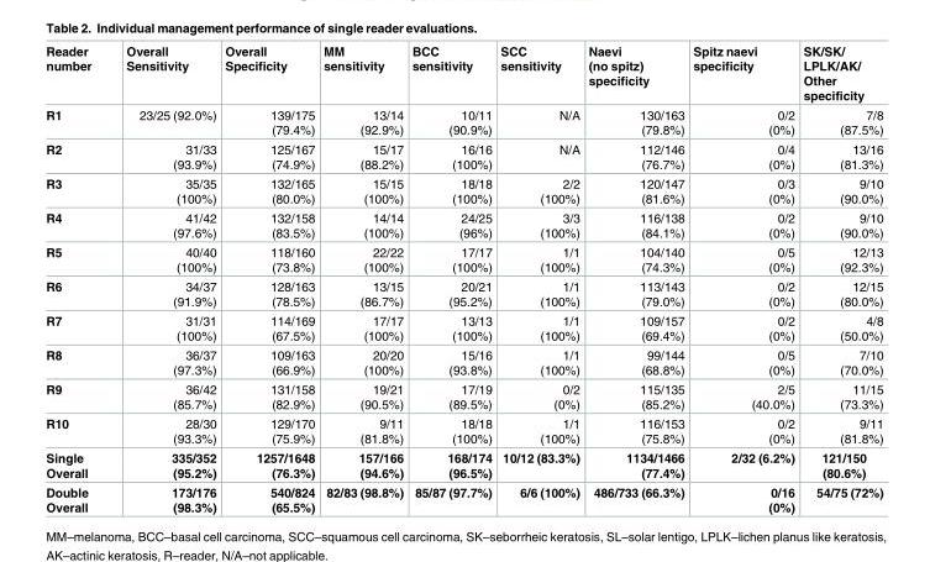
<table><thead><tr><td>Reader number</td><td>Overall Sensitivity</td><td>Overall Specificity</td><td>MM sensitivity</td><td>BCC sensitivity</td><td>SCC sensitivity</td><td>Naevi (no spitz) specificity</td><td>Spitz naevi specificity</td><td>SK/SK/ LPLK/AK/ Other specificity</td></tr></thead><tbody><tr><td>R1</td><td>23/25 (92.0%)</td><td>139/175 (79.4%)</td><td>13/14 (92.9%)</td><td>10/11 (90.9%)</td><td>N/A</td><td>130/163 (79.8%)</td><td>0/2 (0%)</td><td>7/8 (87.5%)</td></tr><tr><td>R2</td><td>31/33 (93.9%)</td><td>125/167 (74.9%)</td><td>15/17 (88.2%)</td><td>16/16 (100%)</td><td>N/A</td><td>112/146 (76.7%)</td><td>0/4 (0%)</td><td>13/16 (81.3%)</td></tr><tr><td>R3</td><td>35/35 (100%)</td><td>132/165 (80.0%)</td><td>15/15 (100%)</td><td>18/18 (100%)</td><td>2/2 (100%)</td><td>120/147 (81.6%)</td><td>0/3 (0%)</td><td>9/10 (90.0%)</td></tr><tr><td>R4</td><td>41/42 (97.6%)</td><td>132/158 (83.5%)</td><td>14/14 (100%)</td><td>24/25 (96%)</td><td>3/3 (100%)</td><td>116/138 (84.1%)</td><td>0/2 (0%)</td><td>9/10 (90.0%)</td></tr><tr><td>R5</td><td>40/40 (100%)</td><td>118/160 (73.8%)</td><td>22/22 (100%)</td><td>17/17 (100%)</td><td>1/1 (100%)</td><td>104/140 (74.3%)</td><td>0/5 (0%)</td><td>12/13 (92.3%)</td></tr><tr><td>R6</td><td>34/37 (91.9%)</td><td>128/163 (78.5%)</td><td>13/15 (86.7%)</td><td>20/21 (95.2%)</td><td>1/1 (100%)</td><td>113/143 (79.0%)</td><td>0/2 (0%)</td><td>12/15 (80.0%)</td></tr><tr><td>R7</td><td>31/31 (100%)</td><td>114/169 (67.5%)</td><td>17/17 (100%)</td><td>13/13 (100%)</td><td>1/1 (100%)</td><td>109/157 (69.4%)</td><td>0/2 (0%)</td><td>4/8 (50.0%)</td></tr><tr><td>R8</td><td>36/37 (97.3%)</td><td>109/163 (66.9%)</td><td>20/20 (100%)</td><td>15/16 (93.8%)</td><td>1/1 (100%)</td><td>99/144 (68.8%)</td><td>0/5 (0%)</td><td>7/10 (70.0%)</td></tr><tr><td>R9</td><td>36/42 (85.7%)</td><td>131/158 (82.9%)</td><td>19/21 (90.5%)</td><td>17/19 (89.5%)</td><td>0/2 (0%)</td><td>115/135 (85.2%)</td><td>2/5 (40.0%)</td><td>11/15 (73.3%)</td></tr><tr><td>R10</td><td>28/30 (93.3%)</td><td>129/170 (75.9%)</td><td>9/11 (81.8%)</td><td>18/18 (100%)</td><td>1/1 (100%)</td><td>116/153 (75.8%)</td><td>0/2 (0%)</td><td>9/11 (81.8%)</td></tr><tr><td>Single Overall</td><td>335/352 (95.2%)</td><td>1257/1648 (76.3%)</td><td>157/166 (94.6%)</td><td>168/174 (96.5%)</td><td>10/12 (83.3%)</td><td>1134/1466 (77.4%)</td><td>2/32 (6.2%)</td><td>121/150 (80.6%)</td></tr><tr><td>Double Overall</td><td>173/176 (98.3%)</td><td>540/824 (65.5%)</td><td>82/83 (98.8%)</td><td>85/87 (97.7%)</td><td>6/6 (100%)</td><td>486/733 (66.3%)</td><td>0/16 (0%)</td><td>54/75 (72%)</td></tr></tbody></table>